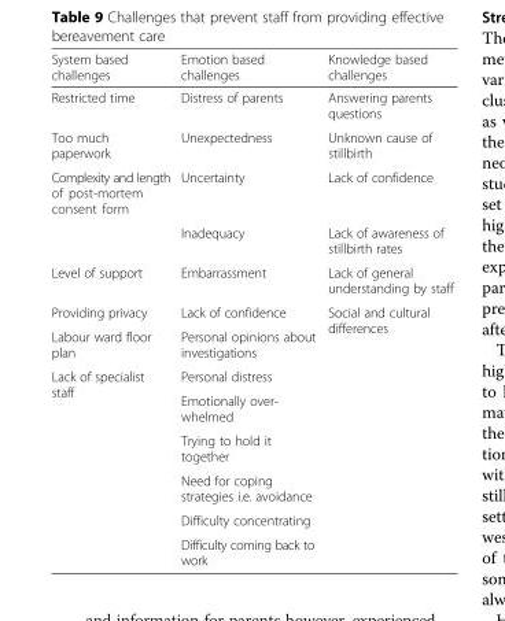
<table><thead><tr><td>System based challenges</td><td>Emotion based challenges</td><td>Knowledge based challenges</td></tr></thead><tbody><tr><td>Restricted time</td><td>Distress of parents</td><td>Answering parents questions</td></tr><tr><td>Too much paperwork</td><td>Unexpectedness</td><td>Unknown cause of stillbirth</td></tr><tr><td rowspan="2">Complexity and length of post-mortem consent form</td><td>Uncertainty</td><td>Lack of confidence</td></tr><tr><td>Inadequacy</td><td>Lack of awareness of stillbirth rates</td></tr><tr><td>Level of support</td><td>Embarrassment</td><td>Lack of general understanding by staff</td></tr><tr><td>Providing privacy</td><td>Lack of confidence</td><td rowspan="8">Social and cultural differences</td></tr><tr><td>Labour ward floor plan</td><td>Personal opinions about investigations</td></tr><tr><td rowspan="6">Lack of specialist staff</td><td>Personal distress</td></tr><tr><td>Emotionally over- whelmed</td></tr><tr><td>Trying to hold it together</td></tr><tr><td>Need for coping strategies i.e. avoidance</td></tr><tr><td>Difficulty concentrating</td></tr><tr><td>Difficulty coming back to work</td></tr></tbody></table>